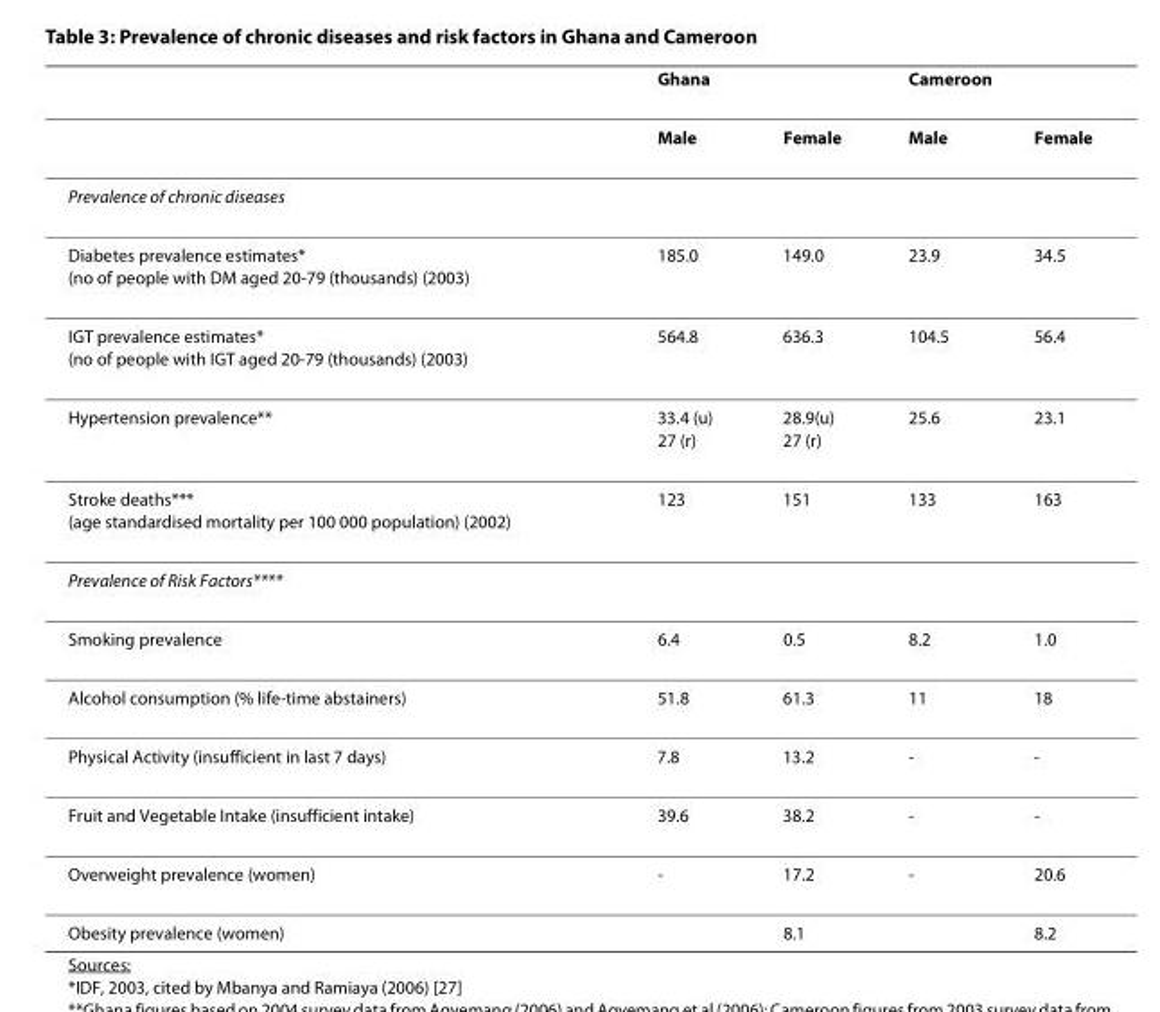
<table><thead><tr><td rowspan="2"></td><td colspan="2">Ghana</td><td colspan="2">Cameroon</td></tr><tr><td>Male</td><td>Female</td><td>Male</td><td>Female</td></tr></thead><tbody><tr><td colspan="5">Prevalence of chronic diseases</td></tr><tr><td>Diabetes prevalence estimates* (no of people with DM aged 20-79 (thousands) (2003)</td><td>185.0</td><td>149.0</td><td>23.9</td><td>34.5</td></tr><tr><td>IGT prevalence estimates* (no of people with IGT aged 20-79 (thousands) (2003)</td><td>564.8</td><td>636.3</td><td>104.5</td><td>56.4</td></tr><tr><td>Hypertension prevalence**</td><td>33.4 (u) 27 (r)</td><td>28.9(u) 27 (r)</td><td>25.6</td><td>23.1</td></tr><tr><td>Stroke deaths*** (age standardised mortality per 100 000 population) (2002)</td><td>123</td><td>151</td><td>133</td><td>163</td></tr><tr><td colspan="5">Prevalence of Risk Factors****</td></tr><tr><td>Smoking prevalence</td><td>6.4</td><td>0.5</td><td>8.2</td><td>1.0</td></tr><tr><td>Alcohol consumption (% life-time abstainers)</td><td>51.8</td><td>61.3</td><td>11</td><td>18</td></tr><tr><td>Physical Activity (insufficient in last 7 days)</td><td>7.8</td><td>13.2</td><td>-</td><td>-</td></tr><tr><td>Fruit and Vegetable Intake (insufficient intake)</td><td>39.6</td><td>38.2</td><td>-</td><td>-</td></tr><tr><td>Overweight prevalence (women)</td><td>-</td><td>17.2</td><td>-</td><td>20.6</td></tr><tr><td>Obesity prevalence (women)</td><td></td><td>8.1</td><td></td><td>8.2</td></tr></tbody></table>